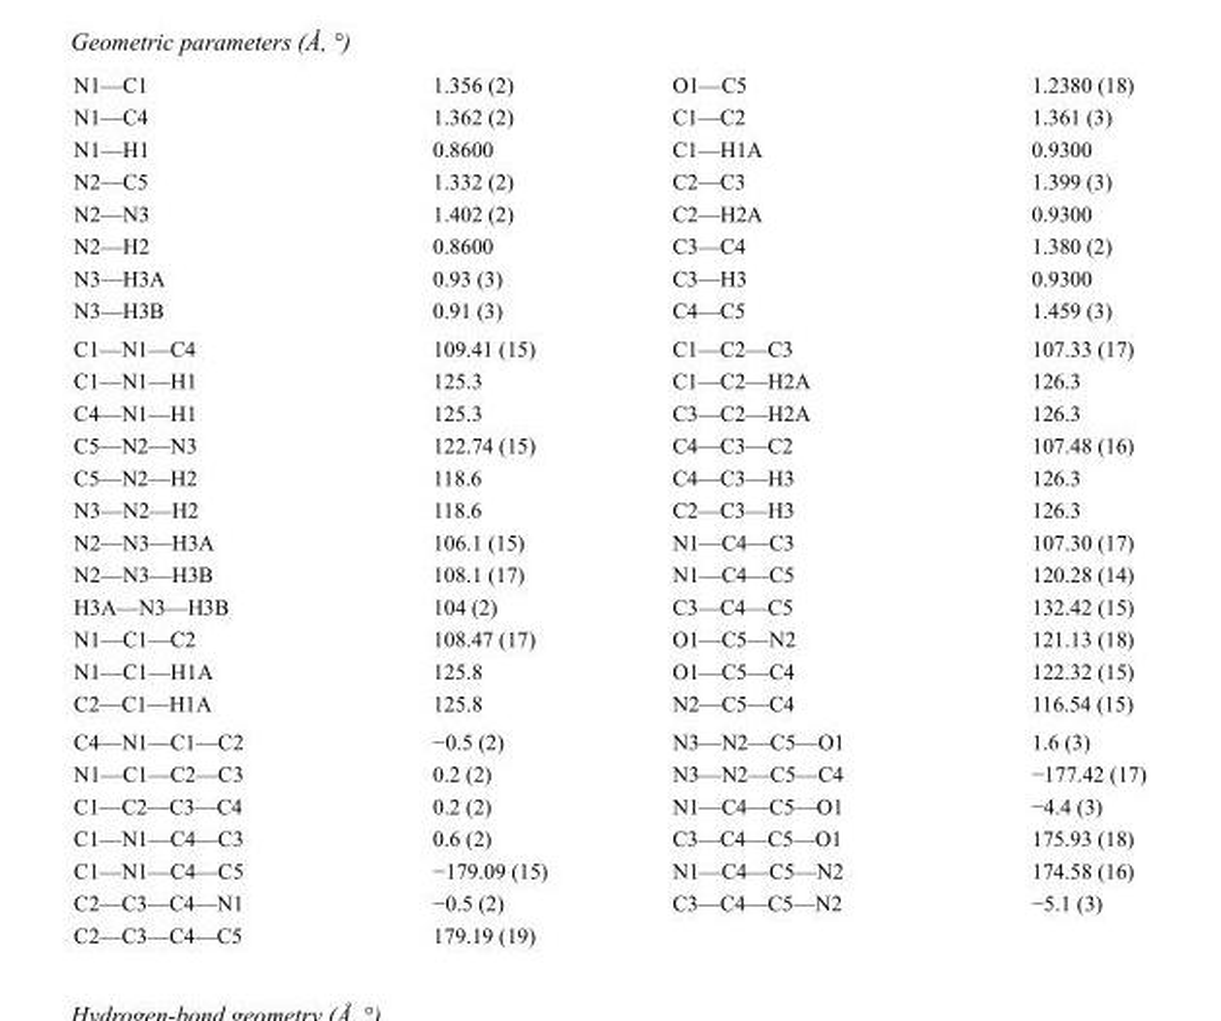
<table><tbody><tr><td>N1—C1</td><td>1.356 (2)</td><td>O1—C5</td><td>1.2380 (18)</td></tr><tr><td>N1—C4</td><td>1.362 (2)</td><td>C1—C2</td><td>1.361 (3)</td></tr><tr><td>N1—H1</td><td>0.8600</td><td>C1—H1A</td><td>0.9300</td></tr><tr><td>N2—C5</td><td>1.332 (2)</td><td>C2—C3</td><td>1.399 (3)</td></tr><tr><td>N2—N3</td><td>1.402 (2)</td><td>C2—H2A</td><td>0.9300</td></tr><tr><td>N2—H2</td><td>0.8600</td><td>C3—C4</td><td>1.380 (2)</td></tr><tr><td>N3—H3A</td><td>0.93 (3)</td><td>C3—H3</td><td>0.9300</td></tr><tr><td>N3—H3B</td><td>0.91 (3)</td><td>C4—C5</td><td>1.459 (3)</td></tr><tr><td>C1—N1—C4</td><td>109.41 (15)</td><td>C1—C2—C3</td><td>107.33 (17)</td></tr><tr><td>C1—N1—H1</td><td>125.3</td><td>C1—C2—H2A</td><td>126.3</td></tr><tr><td>C4—N1—H1</td><td>125.3</td><td>C3—C2—H2A</td><td>126.3</td></tr><tr><td>C5—N2—N3</td><td>122.74 (15)</td><td>C4—C3—C2</td><td>107.48 (16)</td></tr><tr><td>C5—N2—H2</td><td>118.6</td><td>C4—C3—H3</td><td>126.3</td></tr><tr><td>N3—N2—H2</td><td>118.6</td><td>C2—C3—H3</td><td>126.3</td></tr><tr><td>N2—N3—H3A</td><td>106.1 (15)</td><td>N1—C4—C3</td><td>107.30 (17)</td></tr><tr><td>N2—N3—H3B</td><td>108.1 (17)</td><td>N1—C4—C5</td><td>120.28 (14)</td></tr><tr><td>H3A—N3—H3B</td><td>104 (2)</td><td>C3—C4—C5</td><td>132.42 (15)</td></tr><tr><td>N1—C1—C2</td><td>108.47 (17)</td><td>O1—C5—N2</td><td>121.13 (18)</td></tr><tr><td>N1—C1—H1A</td><td>125.8</td><td>O1—C5—C4</td><td>122.32 (15)</td></tr><tr><td>C2—C1—H1A</td><td>125.8</td><td>N2—C5—C4</td><td>116.54 (15)</td></tr><tr><td>C4—N1—C1—C2</td><td>−0.5 (2)</td><td>N3—N2—C5—O1</td><td>1.6 (3)</td></tr><tr><td>N1—C1—C2—C3</td><td>0.2 (2)</td><td>N3—N2—C5—C4</td><td>−177.42 (17)</td></tr><tr><td>C1—C2—C3—C4</td><td>0.2 (2)</td><td>N1—C4—C5—O1</td><td>−4.4 (3)</td></tr><tr><td>C1—N1—C4—C3</td><td>0.6 (2)</td><td>C3—C4—C5—O1</td><td>175.93 (18)</td></tr><tr><td>C1—N1—C4—C5</td><td>−179.09 (15)</td><td>N1—C4—C5—N2</td><td>174.58 (16)</td></tr><tr><td>C2—C3—C4—N1</td><td>−0.5 (2)</td><td>C3—C4—C5—N2</td><td>−5.1 (3)</td></tr><tr><td>C2—C3—C4—C5</td><td>179.19 (19)</td><td></td><td></td></tr></tbody></table>